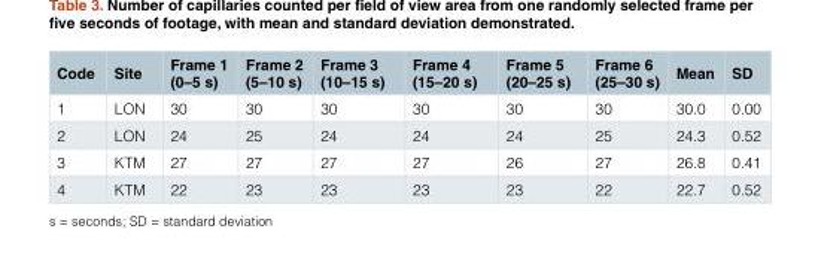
<table><thead><tr><td>Code</td><td>Site</td><td>Frame 1 (0–5 s)</td><td>Frame 2 (5–10 s)</td><td>Frame 3 (10–15 s)</td><td>Frame 4 (15–20 s)</td><td>Frame 5 (20–25 s)</td><td>Frame 6 (25–30 s)</td><td>Mean</td><td>SD</td></tr></thead><tbody><tr><td>1</td><td>LON</td><td>30</td><td>30</td><td>30</td><td>30</td><td>30</td><td>30</td><td>30.0</td><td>0.00</td></tr><tr><td>2</td><td>LON</td><td>24</td><td>25</td><td>24</td><td>24</td><td>24</td><td>25</td><td>24.3</td><td>0.52</td></tr><tr><td>3</td><td>KTM</td><td>27</td><td>27</td><td>27</td><td>27</td><td>26</td><td>27</td><td>26.8</td><td>0.41</td></tr><tr><td>4</td><td>KTM</td><td>22</td><td>23</td><td>23</td><td>23</td><td>23</td><td>22</td><td>22.7</td><td>0.52</td></tr></tbody></table>